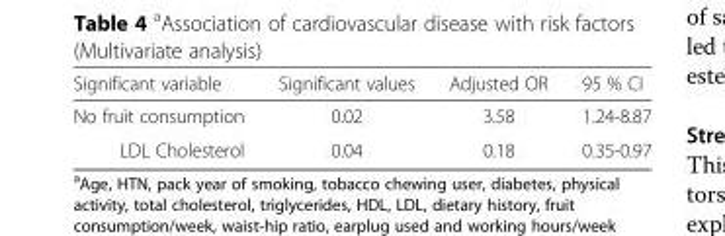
<table><thead><tr><td>Significant variable</td><td>Significant values</td><td>Adjusted OR</td><td>95 % CI</td></tr></thead><tbody><tr><td>No fruit consumption</td><td>0.02</td><td>3.58</td><td>1.24-8.87</td></tr><tr><td>LDL Cholesterol</td><td>0.04</td><td>0.18</td><td>0.35-0.97</td></tr></tbody></table>